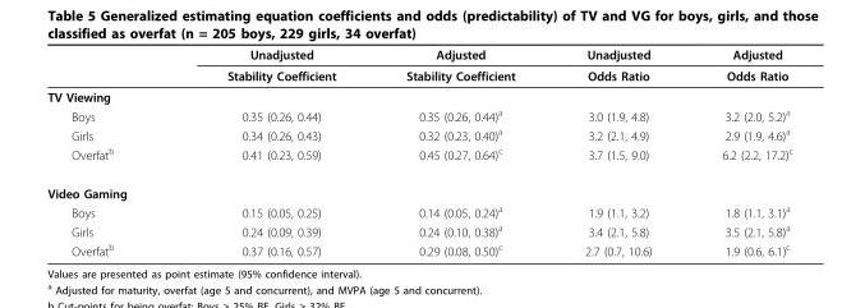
<table><thead><tr><td rowspan="2"></td><td rowspan="2">Unadjusted Stability Coefficient</td><td rowspan="2">Adjusted Stability Coefficient</td><td rowspan="2">Unadjusted Odds Ratio</td><td rowspan="2">Adjusted Odds Ratio</td></tr><tr></tr></thead><tbody><tr><td colspan="5">TV Viewing</td></tr><tr><td>Boys</td><td>0.35 (0.26, 0.44)</td><td>0.35 (0.26, 0.44)<sup>a</sup></td><td>3.0 (1.9, 4.8)</td><td>3.2 (2.0, 5.2)<sup>a</sup></td></tr><tr><td>Girls</td><td>0.34 (0.26, 0.43)</td><td>0.32 (0.23, 0.40)<sup>a</sup></td><td>3.2 (2.1, 4.9)</td><td>2.9 (1.9, 4.6)<sup>a</sup></td></tr><tr><td>Overfat<sup>b</sup></td><td>0.41 (0.23, 0.59)</td><td>0.45 (0.27, 0.64)<sup>c</sup></td><td>3.7 (1.5, 9.0)</td><td>6.2 (2.2, 17.2)<sup>c</sup></td></tr><tr><td colspan="5">Video Gaming</td></tr><tr><td>Boys</td><td>0.15 (0.05, 0.25)</td><td>0.14 (0.05, 0.24)<sup>a</sup></td><td>1.9 (1.1, 3.2)</td><td>1.8 (1.1, 3.1)<sup>a</sup></td></tr><tr><td>Girls</td><td>0.24 (0.09, 0.39)</td><td>0.24 (0.10, 0.38)<sup>a</sup></td><td>3.4 (2.1, 5.8)</td><td>3.5 (2.1, 5.8)<sup>a</sup></td></tr><tr><td>Overfat<sup>b</sup></td><td>0.37 (0.16, 0.57)</td><td>0.29 (0.08, 0.50)<sup>c</sup></td><td>2.7 (0.7, 10.6)</td><td>1.9 (0.6, 6.1)<sup>c</sup></td></tr></tbody></table>